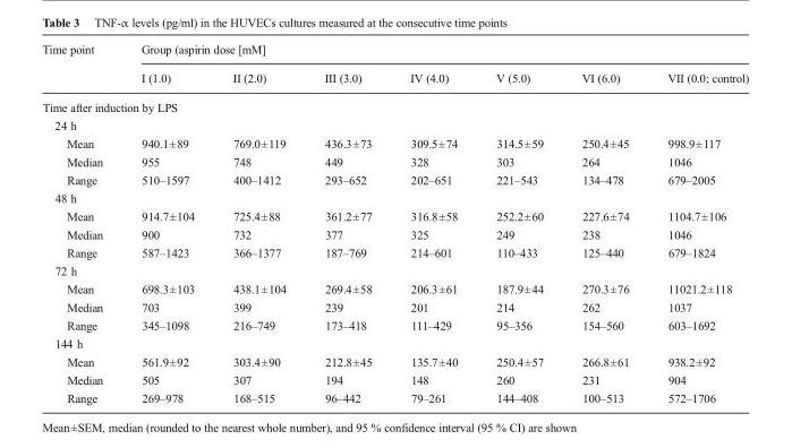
<table><thead><tr><td rowspan="2">Time point</td><td colspan="7">Group (aspirin dose [mM]</td></tr><tr><td>I (1.0)</td><td>II (2.0)</td><td>III (3.0)</td><td>IV (4.0)</td><td>V (5.0)</td><td>VI (6.0)</td><td>VII (0.0; control)</td></tr></thead><tbody><tr><td colspan="8">Time after induction by LPS</td></tr><tr><td colspan="8">24 h</td></tr><tr><td>Mean</td><td>940.1±89</td><td>769.0±119</td><td>436.3±73</td><td>309.5±74</td><td>314.5±59</td><td>250.4±45</td><td>998.9±117</td></tr><tr><td>Median</td><td>955</td><td>748</td><td>449</td><td>328</td><td>303</td><td>264</td><td>1046</td></tr><tr><td>Range</td><td>510–1597</td><td>400–1412</td><td>293–652</td><td>202–651</td><td>221–543</td><td>134–478</td><td>679–2005</td></tr><tr><td colspan="8">48 h</td></tr><tr><td>Mean</td><td>914.7±104</td><td>725.4±88</td><td>361.2±77</td><td>316.8±58</td><td>252.2±60</td><td>227.6±74</td><td>1104.7±106</td></tr><tr><td>Median</td><td>900</td><td>732</td><td>377</td><td>325</td><td>249</td><td>238</td><td>1046</td></tr><tr><td>Range</td><td>587–1423</td><td>366–1377</td><td>187–769</td><td>214–601</td><td>110–433</td><td>125–440</td><td>679–1824</td></tr><tr><td colspan="8">72 h</td></tr><tr><td>Mean</td><td>698.3±103</td><td>438.1±104</td><td>269.4±58</td><td>206.3±61</td><td>187.9±44</td><td>270.3±76</td><td>11021.2±118</td></tr><tr><td>Median</td><td>703</td><td>399</td><td>239</td><td>201</td><td>214</td><td>262</td><td>1037</td></tr><tr><td>Range</td><td>345–1098</td><td>216–749</td><td>173–418</td><td>111–429</td><td>95–356</td><td>154–560</td><td>603–1692</td></tr><tr><td colspan="8">144 h</td></tr><tr><td>Mean</td><td>561.9±92</td><td>303.4±90</td><td>212.8±45</td><td>135.7±40</td><td>250.4±57</td><td>266.8±61</td><td>938.2±92</td></tr><tr><td>Median</td><td>505</td><td>307</td><td>194</td><td>148</td><td>260</td><td>231</td><td>904</td></tr><tr><td>Range</td><td>269–978</td><td>168–515</td><td>96–442</td><td>79–261</td><td>144–408</td><td>100–513</td><td>572–1706</td></tr></tbody></table>